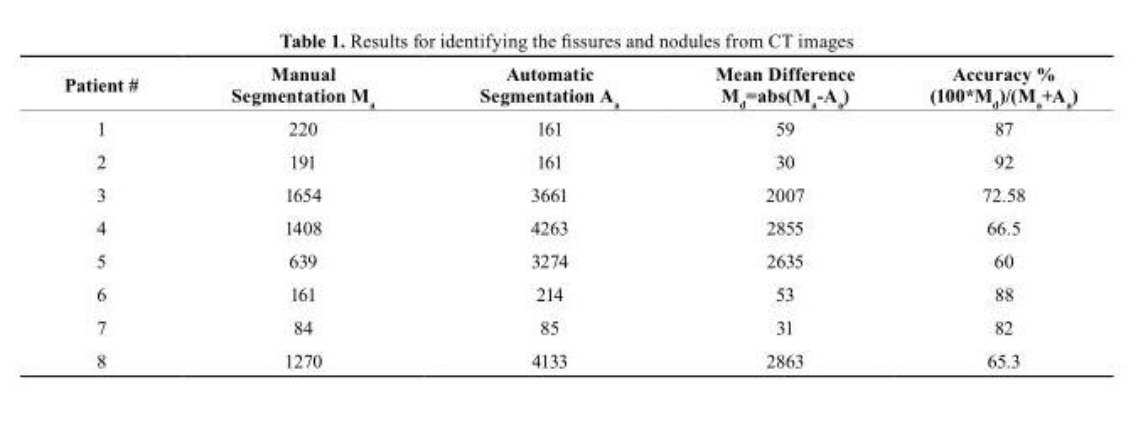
<table><thead><tr><td>Patient #</td><td>Manual Segmentation M<sub>a</sub></td><td>Automatic Segmentation A<sub>a</sub></td><td>Mean Difference M<sub>d</sub>=abs(M<sub>a</sub>-A<sub>a</sub>)</td><td>Accuracy % (100*M<sub>d</sub>)/(M<sub>a</sub>+A<sub>a</sub>)</td></tr></thead><tbody><tr><td>1</td><td>220</td><td>161</td><td>59</td><td>87</td></tr><tr><td>2</td><td>191</td><td>161</td><td>30</td><td>92</td></tr><tr><td>3</td><td>1654</td><td>3661</td><td>2007</td><td>72.58</td></tr><tr><td>4</td><td>1408</td><td>4263</td><td>2855</td><td>66.5</td></tr><tr><td>5</td><td>639</td><td>3274</td><td>2635</td><td>60</td></tr><tr><td>6</td><td>161</td><td>214</td><td>53</td><td>88</td></tr><tr><td>7</td><td>84</td><td>85</td><td>31</td><td>82</td></tr><tr><td>8</td><td>1270</td><td>4133</td><td>2863</td><td>65.3</td></tr></tbody></table>